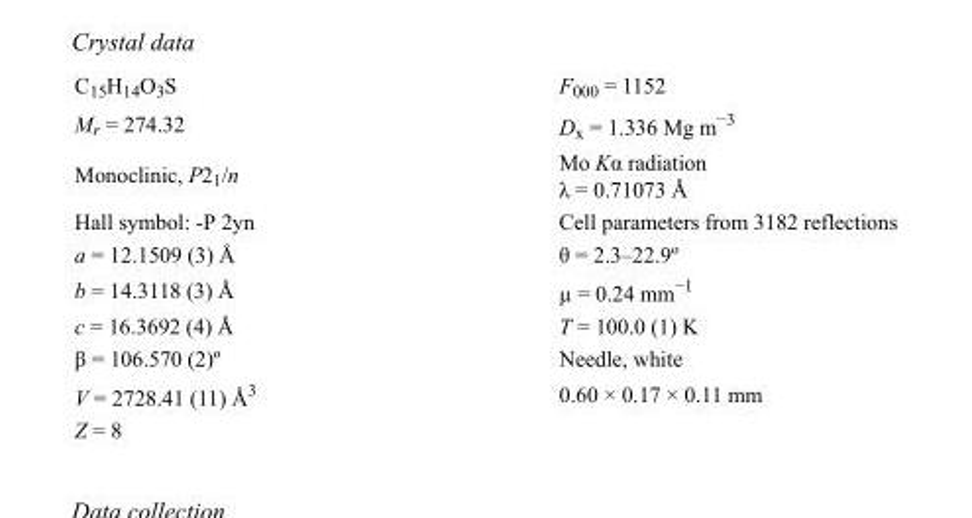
<table><tbody><tr><td>C<sub>15</sub>H<sub>14</sub>O<sub>3</sub>S</td><td>F<sub>000</sub> = 1152</td></tr><tr><td>M<sub>r</sub> = 274.32</td><td>D<sub>x</sub> = 1.336 Mg m<sup>−3</sup></td></tr><tr><td>Monoclinic, P2<sub>1</sub>/n</td><td>Mo Kα radiation λ = 0.71073 Å</td></tr><tr><td>Hall symbol: -P 2yn</td><td>Cell parameters from 3182 reflections</td></tr><tr><td>a = 12.1509 (3) Å</td><td>θ = 2.3–22.9º</td></tr><tr><td>b = 14.3118 (3) Å</td><td>µ = 0.24 mm<sup>−1</sup></td></tr><tr><td>c = 16.3692 (4) Å</td><td>T = 100.0 (1) K</td></tr><tr><td>β = 106.570 (2)º</td><td>Needle, white</td></tr><tr><td>V = 2728.41 (11) Å<sup>3</sup></td><td>0.60 × 0.17 × 0.11 mm</td></tr><tr><td>Z = 8</td><td></td></tr></tbody></table>